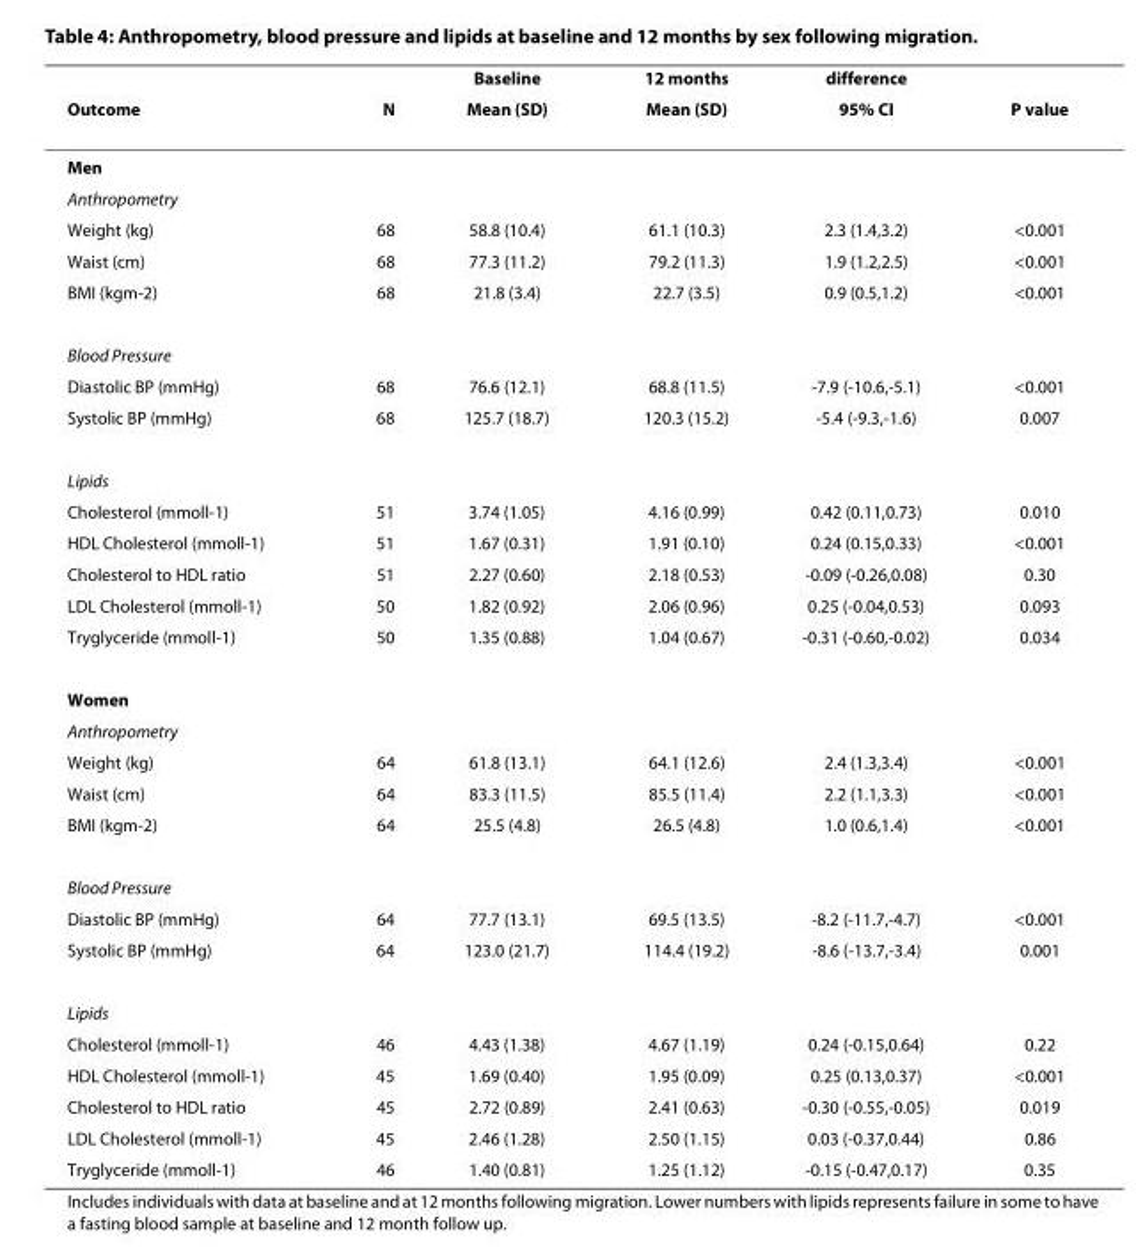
<table><thead><tr><td rowspan="2">Outcome</td><td rowspan="2">N</td><td rowspan="2">Baseline Mean (SD)</td><td rowspan="2">12 months Mean (SD)</td><td rowspan="2">difference 95% CI</td><td rowspan="2">P value</td></tr><tr></tr></thead><tbody><tr><td colspan="6">Men</td></tr><tr><td colspan="6">Anthropometry</td></tr><tr><td>Weight (kg)</td><td>68</td><td>58.8 (10.4)</td><td>61.1 (10.3)</td><td>2.3 (1.4,3.2)</td><td>&lt;0.001</td></tr><tr><td>Waist (cm)</td><td>68</td><td>77.3 (11.2)</td><td>79.2 (11.3)</td><td>1.9 (1.2,2.5)</td><td>&lt;0.001</td></tr><tr><td>BMI (kgm-2)</td><td>68</td><td>21.8 (3.4)</td><td>22.7 (3.5)</td><td>0.9 (0.5,1.2)</td><td>&lt;0.001</td></tr><tr><td colspan="6">Blood Pressure</td></tr><tr><td>Diastolic BP (mmHg)</td><td>68</td><td>76.6 (12.1)</td><td>68.8 (11.5)</td><td>-7.9 (-10.6,-5.1)</td><td>&lt;0.001</td></tr><tr><td>Systolic BP (mmHg)</td><td>68</td><td>125.7 (18.7)</td><td>120.3 (15.2)</td><td>-5.4 (-9.3,-1.6)</td><td>0.007</td></tr><tr><td colspan="6">Lipids</td></tr><tr><td>Cholesterol (mmoll-1)</td><td>51</td><td>3.74 (1.05)</td><td>4.16 (0.99)</td><td>0.42 (0.11,0.73)</td><td>0.010</td></tr><tr><td>HDL Cholesterol (mmoll-1)</td><td>51</td><td>1.67 (0.31)</td><td>1.91 (0.10)</td><td>0.24 (0.15,0.33)</td><td>&lt;0.001</td></tr><tr><td>Cholesterol to HDL ratio</td><td>51</td><td>2.27 (0.60)</td><td>2.18 (0.53)</td><td>-0.09 (-0.26,0.08)</td><td>0.30</td></tr><tr><td>LDL Cholesterol (mmoll-1)</td><td>50</td><td>1.82 (0.92)</td><td>2.06 (0.96)</td><td>0.25 (-0.04,0.53)</td><td>0.093</td></tr><tr><td>Tryglyceride (mmoll-1)</td><td>50</td><td>1.35 (0.88)</td><td>1.04 (0.67)</td><td>-0.31 (-0.60,-0.02)</td><td>0.034</td></tr><tr><td colspan="6">Women</td></tr><tr><td colspan="6">Anthropometry</td></tr><tr><td>Weight (kg)</td><td>64</td><td>61.8 (13.1)</td><td>64.1 (12.6)</td><td>2.4 (1.3,3.4)</td><td>&lt;0.001</td></tr><tr><td>Waist (cm)</td><td>64</td><td>83.3 (11.5)</td><td>85.5 (11.4)</td><td>2.2 (1.1,3.3)</td><td>&lt;0.001</td></tr><tr><td>BMI (kgm-2)</td><td>64</td><td>25.5 (4.8)</td><td>26.5 (4.8)</td><td>1.0 (0.6,1.4)</td><td>&lt;0.001</td></tr><tr><td colspan="6">Blood Pressure</td></tr><tr><td>Diastolic BP (mmHg)</td><td>64</td><td>77.7 (13.1)</td><td>69.5 (13.5)</td><td>-8.2 (-11.7,-4.7)</td><td>&lt;0.001</td></tr><tr><td>Systolic BP (mmHg)</td><td>64</td><td>123.0 (21.7)</td><td>114.4 (19.2)</td><td>-8.6 (-13.7,-3.4)</td><td>0.001</td></tr><tr><td colspan="6">Lipids</td></tr><tr><td>Cholesterol (mmoll-1)</td><td>46</td><td>4.43 (1.38)</td><td>4.67 (1.19)</td><td>0.24 (-0.15,0.64)</td><td>0.22</td></tr><tr><td>HDL Cholesterol (mmoll-1)</td><td>45</td><td>1.69 (0.40)</td><td>1.95 (0.09)</td><td>0.25 (0.13,0.37)</td><td>&lt;0.001</td></tr><tr><td>Cholesterol to HDL ratio</td><td>45</td><td>2.72 (0.89)</td><td>2.41 (0.63)</td><td>-0.30 (-0.55,-0.05)</td><td>0.019</td></tr><tr><td>LDL Cholesterol (mmoll-1)</td><td>45</td><td>2.46 (1.28)</td><td>2.50 (1.15)</td><td>0.03 (-0.37,0.44)</td><td>0.86</td></tr><tr><td>Tryglyceride (mmoll-1)</td><td>46</td><td>1.40 (0.81)</td><td>1.25 (1.12)</td><td>-0.15 (-0.47,0.17)</td><td>0.35</td></tr></tbody></table>